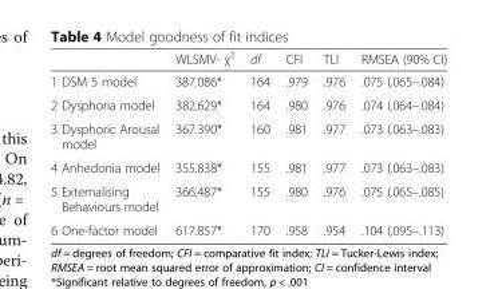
<table><thead><tr><td></td><td>WLSMV- χ<sup>2</sup></td><td>df</td><td>CFI</td><td>TLI</td><td>RMSEA (90% CI)</td></tr></thead><tbody><tr><td>1 DSM 5 model</td><td>387.086*</td><td>164</td><td>.979</td><td>.976</td><td>.075 (.065–.084)</td></tr><tr><td>2 Dysphoria model</td><td>382.629*</td><td>164</td><td>.980</td><td>.976</td><td>.074 (.064–.084)</td></tr><tr><td>3 Dysphoric Arousal model</td><td>367.390*</td><td>160</td><td>.981</td><td>.977</td><td>.073 (.063–.083)</td></tr><tr><td>4 Anhedonia model</td><td>355.838*</td><td>155</td><td>.981</td><td>.977</td><td>.073 (.063–.083)</td></tr><tr><td>5 Externalising Behaviours model</td><td>366.487*</td><td>155</td><td>.980</td><td>.976</td><td>.075 (.065–.085)</td></tr><tr><td>6 One-factor model</td><td>617.857*</td><td>170</td><td>.958</td><td>.954</td><td>.104 (.095–.113)</td></tr></tbody></table>